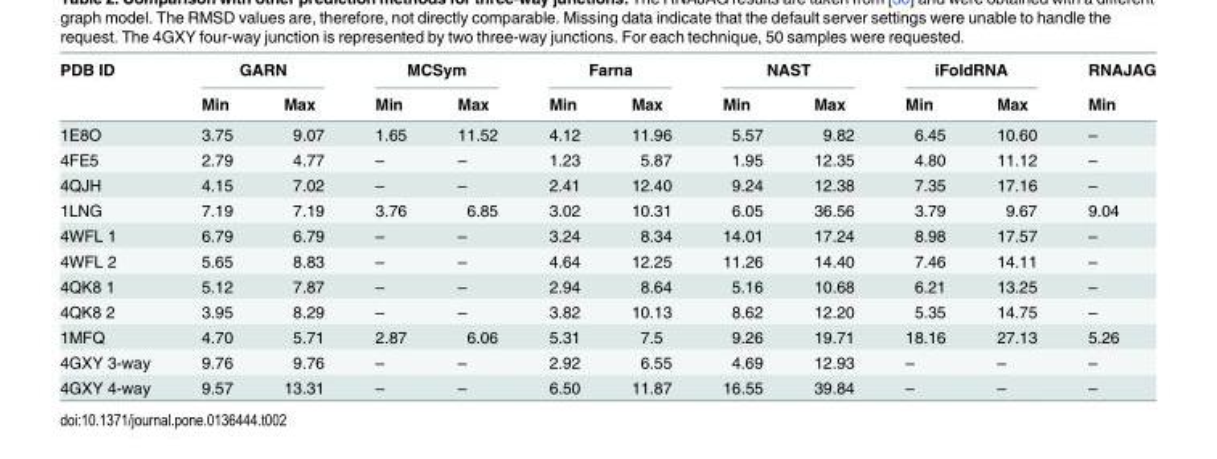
<table><thead><tr><td rowspan="2">PDB ID</td><td colspan="2">GARN</td><td colspan="2">MCSym</td><td colspan="2">Farna</td><td colspan="2">NAST</td><td colspan="2">iFoldRNA</td><td rowspan="2">RNAJAG Min</td></tr><tr><td>Min</td><td>Max</td><td>Min</td><td>Max</td><td>Min</td><td>Max</td><td>Min</td><td>Max</td><td>Min</td><td>Max</td></tr></thead><tbody><tr><td>1E8O</td><td>3.75</td><td>9.07</td><td>1.65</td><td>11.52</td><td>4.12</td><td>11.96</td><td>5.57</td><td>9.82</td><td>6.45</td><td>10.60</td><td>–</td></tr><tr><td>4FE5</td><td>2.79</td><td>4.77</td><td>–</td><td>–</td><td>1.23</td><td>5.87</td><td>1.95</td><td>12.35</td><td>4.80</td><td>11.12</td><td>–</td></tr><tr><td>4QJH</td><td>4.15</td><td>7.02</td><td>–</td><td>–</td><td>2.41</td><td>12.40</td><td>9.24</td><td>12.38</td><td>7.35</td><td>17.16</td><td>–</td></tr><tr><td>1LNG</td><td>7.19</td><td>7.19</td><td>3.76</td><td>6.85</td><td>3.02</td><td>10.31</td><td>6.05</td><td>36.56</td><td>3.79</td><td>9.67</td><td>9.04</td></tr><tr><td>4WFL 1</td><td>6.79</td><td>6.79</td><td>–</td><td>–</td><td>3.24</td><td>8.34</td><td>14.01</td><td>17.24</td><td>8.98</td><td>17.57</td><td>–</td></tr><tr><td>4WFL 2</td><td>5.65</td><td>8.83</td><td>–</td><td>–</td><td>4.64</td><td>12.25</td><td>11.26</td><td>14.40</td><td>7.46</td><td>14.11</td><td>–</td></tr><tr><td>4QK8 1</td><td>5.12</td><td>7.87</td><td>–</td><td>–</td><td>2.94</td><td>8.64</td><td>5.16</td><td>10.68</td><td>6.21</td><td>13.25</td><td>–</td></tr><tr><td>4QK8 2</td><td>3.95</td><td>8.29</td><td>–</td><td>–</td><td>3.82</td><td>10.13</td><td>8.62</td><td>12.20</td><td>5.35</td><td>14.75</td><td>–</td></tr><tr><td>1MFQ</td><td>4.70</td><td>5.71</td><td>2.87</td><td>6.06</td><td>5.31</td><td>7.5</td><td>9.26</td><td>19.71</td><td>18.16</td><td>27.13</td><td>5.26</td></tr><tr><td>4GXY 3-way</td><td>9.76</td><td>9.76</td><td>–</td><td>–</td><td>2.92</td><td>6.55</td><td>4.69</td><td>12.93</td><td>–</td><td>–</td><td>–</td></tr><tr><td>4GXY 4-way</td><td>9.57</td><td>13.31</td><td>–</td><td>–</td><td>6.50</td><td>11.87</td><td>16.55</td><td>39.84</td><td>–</td><td>–</td><td>–</td></tr></tbody></table>